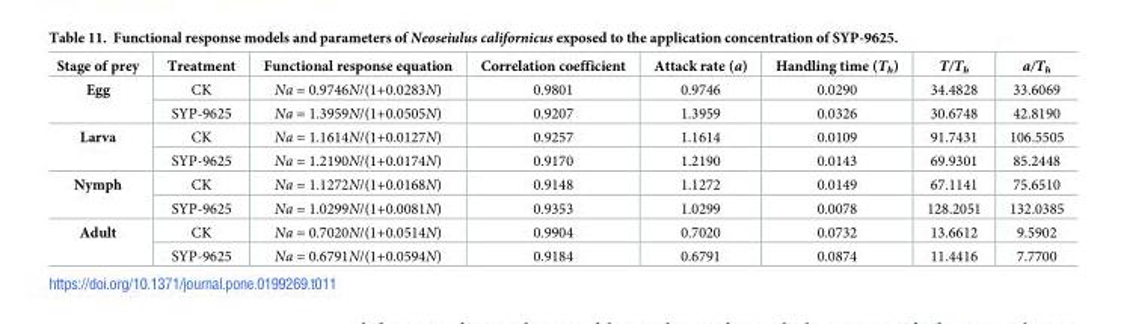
<table><thead><tr><td>Stage of prey</td><td>Treatment</td><td>Functional response equation</td><td>Correlation coefficient</td><td>Attack rate (a)</td><td>Handling time (T<sub>h</sub>)</td><td>T/T<sub>h</sub></td><td>a/T<sub>h</sub></td></tr></thead><tbody><tr><td rowspan="2">Egg</td><td>CK</td><td>Na = 0.9746N/(1+0.0283N)</td><td>0.9801</td><td>0.9746</td><td>0.0290</td><td>34.4828</td><td>33.6069</td></tr><tr><td>SYP-9625</td><td>Na = 1.3959N/(1+0.0505N)</td><td>0.9207</td><td>1.3959</td><td>0.0326</td><td>30.6748</td><td>42.8190</td></tr><tr><td rowspan="2">Larva</td><td>CK</td><td>Na = 1.1614N/(1+0.0127N)</td><td>0.9257</td><td>1.1614</td><td>0.0109</td><td>91.7431</td><td>106.5505</td></tr><tr><td>SYP-9625</td><td>Na = 1.2190N/(1+0.0174N)</td><td>0.9170</td><td>1.2190</td><td>0.0143</td><td>69.9301</td><td>85.2448</td></tr><tr><td rowspan="2">Nymph</td><td>CK</td><td>Na = 1.1272N/(1+0.0168N)</td><td>0.9148</td><td>1.1272</td><td>0.0149</td><td>67.1141</td><td>75.6510</td></tr><tr><td>SYP-9625</td><td>Na = 1.0299N/(1+0.0081N)</td><td>0.9353</td><td>1.0299</td><td>0.0078</td><td>128.2051</td><td>132.0385</td></tr><tr><td rowspan="2">Adult</td><td>CK</td><td>Na = 0.7020N/(1+0.0514N)</td><td>0.9904</td><td>0.7020</td><td>0.0732</td><td>13.6612</td><td>9.5902</td></tr><tr><td>SYP-9625</td><td>Na = 0.6791N/(1+0.0594N)</td><td>0.9184</td><td>0.6791</td><td>0.0874</td><td>11.4416</td><td>7.7700</td></tr></tbody></table>